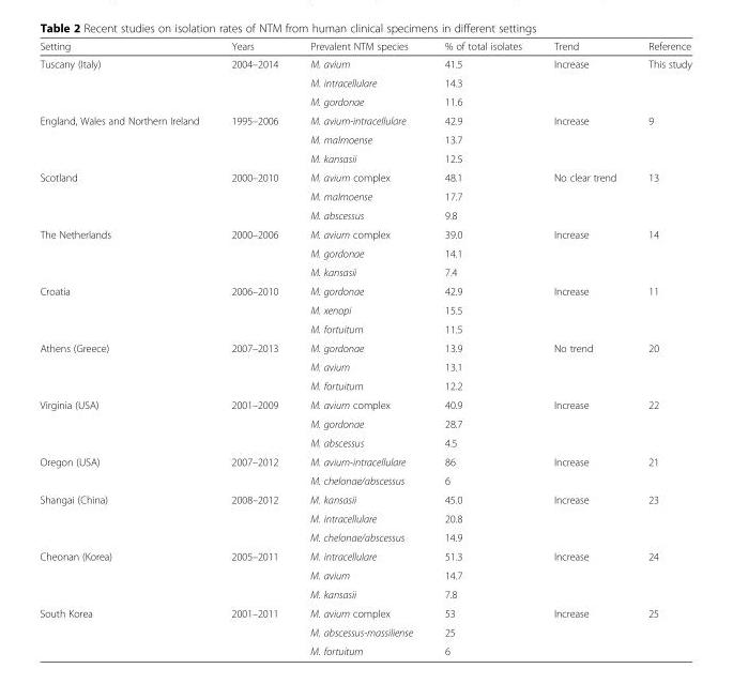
<table><thead><tr><td>Setting</td><td>Years</td><td>Prevalent NTM species</td><td>% of total isolates</td><td>Trend</td><td>Reference</td></tr></thead><tbody><tr><td rowspan="3">Tuscany (Italy)</td><td rowspan="3">2004–2014</td><td>M. avium</td><td>41.5</td><td rowspan="3">Increase</td><td rowspan="3">This study</td></tr><tr><td>M. intracellulare</td><td>14.3</td></tr><tr><td>M. gordonae</td><td>11.6</td></tr><tr><td rowspan="3">England, Wales and Northern Ireland</td><td rowspan="3">1995–2006</td><td>M. avium-intracellulare</td><td>42.9</td><td rowspan="3">Increase</td><td rowspan="3">9</td></tr><tr><td>M. malmoense</td><td>13.7</td></tr><tr><td>M. kansasii</td><td>12.5</td></tr><tr><td rowspan="3">Scotland</td><td rowspan="3">2000–2010</td><td>M. avium complex</td><td>48.1</td><td rowspan="3">No clear trend</td><td rowspan="3">13</td></tr><tr><td>M. malmoense</td><td>17.7</td></tr><tr><td>M. abscessus</td><td>9.8</td></tr><tr><td rowspan="3">The Netherlands</td><td rowspan="3">2000–2006</td><td>M. avium complex</td><td>39.0</td><td rowspan="3">Increase</td><td rowspan="3">14</td></tr><tr><td>M. gordonae</td><td>14.1</td></tr><tr><td>M. kansasii</td><td>7.4</td></tr><tr><td rowspan="3">Croatia</td><td rowspan="3">2006–2010</td><td>M. gordonae</td><td>42.9</td><td rowspan="3">Increase</td><td rowspan="3">11</td></tr><tr><td>M. xenopi</td><td>15.5</td></tr><tr><td>M. fortuitum</td><td>11.5</td></tr><tr><td rowspan="3">Athens (Greece)</td><td rowspan="3">2007–2013</td><td>M. gordonae</td><td>13.9</td><td rowspan="3">No trend</td><td rowspan="3">20</td></tr><tr><td>M. avium</td><td>13.1</td></tr><tr><td>M. fortuitum</td><td>12.2</td></tr><tr><td rowspan="3">Virginia (USA)</td><td rowspan="3">2001–2009</td><td>M. avium complex</td><td>40.9</td><td rowspan="3">Increase</td><td rowspan="3">22</td></tr><tr><td>M. gordonae</td><td>28.7</td></tr><tr><td>M. abscessus</td><td>4.5</td></tr><tr><td rowspan="2">Oregon (USA)</td><td rowspan="2">2007–2012</td><td>M. avium-intracellulare</td><td>86</td><td rowspan="2">Increase</td><td rowspan="2">21</td></tr><tr><td>M. chelonae/abscessus</td><td>6</td></tr><tr><td rowspan="3">Shangai (China)</td><td rowspan="3">2008–2012</td><td>M. kansasii</td><td>45.0</td><td rowspan="3">Increase</td><td rowspan="3">23</td></tr><tr><td>M. intracellulare</td><td>20.8</td></tr><tr><td>M. chelonae/abscessus</td><td>14.9</td></tr><tr><td rowspan="3">Cheonan (Korea)</td><td rowspan="3">2005–2011</td><td>M. intracellulare</td><td>51.3</td><td rowspan="3">Increase</td><td rowspan="3">24</td></tr><tr><td>M. avium</td><td>14.7</td></tr><tr><td>M. kansasii</td><td>7.8</td></tr><tr><td rowspan="3">South Korea</td><td rowspan="3">2001–2011</td><td>M. avium complex</td><td>53</td><td rowspan="3">Increase</td><td rowspan="3">25</td></tr><tr><td>M. abscessus-massiliense</td><td>25</td></tr><tr><td>M. fortuitum</td><td>6</td></tr></tbody></table>